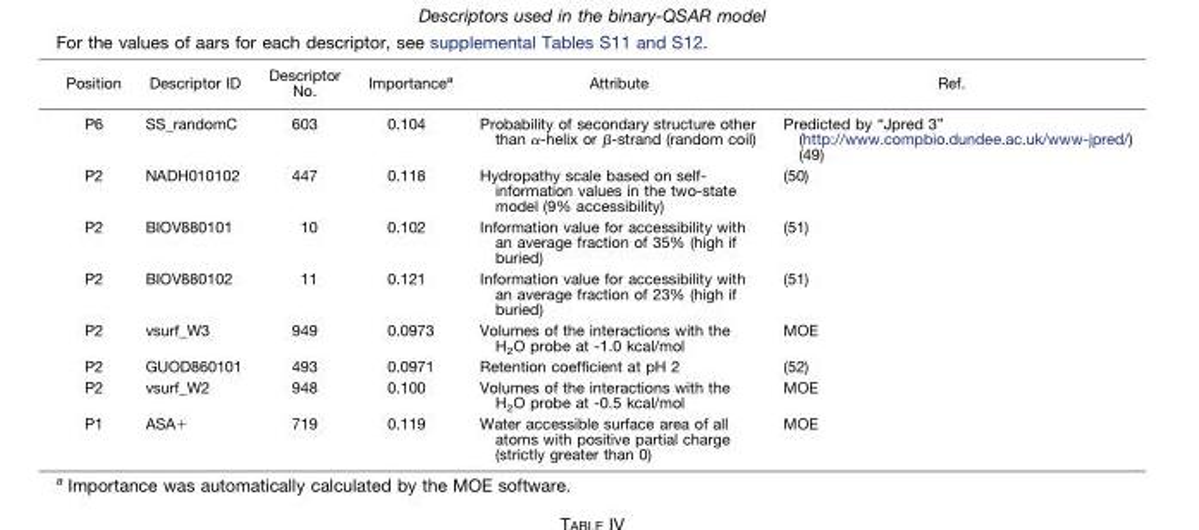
<table><thead><tr><td>Position</td><td>Descriptor ID</td><td>Descriptor No.</td><td>Importance<sup>a</sup></td><td>Attribute</td><td>Ref.</td></tr></thead><tbody><tr><td>P6</td><td>SS_randomC</td><td>603</td><td>0.104</td><td>Probability of secondary structure other than α-helix or β-strand (random coil)</td><td>Predicted by “Jpred 3” (http://www.compbio.dundee.ac.uk/www-jpred/) (49)</td></tr><tr><td>P2</td><td>NADH010102</td><td>447</td><td>0.118</td><td>Hydropathy scale based on self- information values in the two-state model (9% accessibility)</td><td>(50)</td></tr><tr><td>P2</td><td>BIOV880101</td><td>10</td><td>0.102</td><td>Information value for accessibility with an average fraction of 35% (high if buried)</td><td>(51)</td></tr><tr><td>P2</td><td>BIOV880102</td><td>11</td><td>0.121</td><td>Information value for accessibility with an average fraction of 23% (high if buried)</td><td>(51)</td></tr><tr><td>P2</td><td>vsurf_W3</td><td>949</td><td>0.0973</td><td>Volumes of the interactions with the H<sub>2</sub>O probe at -1.0 kcal/mol</td><td>MOE</td></tr><tr><td>P2</td><td>GUOD860101</td><td>493</td><td>0.0971</td><td>Retention coefficient at pH 2</td><td>(52)</td></tr><tr><td>P2</td><td>vsurf_W2</td><td>948</td><td>0.100</td><td>Volumes of the interactions with the H<sub>2</sub>O probe at -0.5 kcal/mol</td><td>MOE</td></tr><tr><td>P1</td><td>ASA+</td><td>719</td><td>0.119</td><td>Water accessible surface area of all atoms with positive partial charge (strictly greater than 0)</td><td>MOE</td></tr></tbody></table>